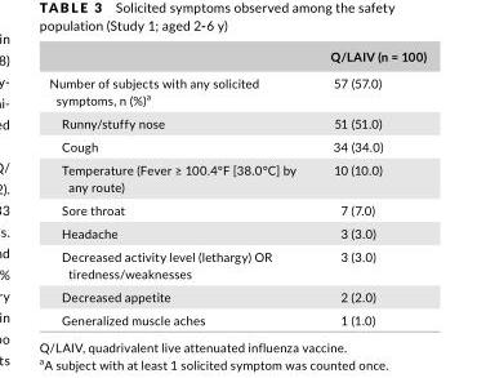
<table><thead><tr><td></td><td>Q/LAIV (n = 100)</td></tr></thead><tbody><tr><td>Number of subjects with any solicited symptoms, n (%)<sup>a</sup></td><td>57 (57.0)</td></tr><tr><td>Runny/stuffy nose</td><td>51 (51.0)</td></tr><tr><td>Cough</td><td>34 (34.0)</td></tr><tr><td>Temperature (Fever ≥ 100.4°F [38.0°C] by any route)</td><td>10 (10.0)</td></tr><tr><td>Sore throat</td><td>7 (7.0)</td></tr><tr><td>Headache</td><td>3 (3.0)</td></tr><tr><td>Decreased activity level (lethargy) OR tiredness/weaknesses</td><td>3 (3.0)</td></tr><tr><td>Decreased appetite</td><td>2 (2.0)</td></tr><tr><td>Generalized muscle aches</td><td>1 (1.0)</td></tr></tbody></table>